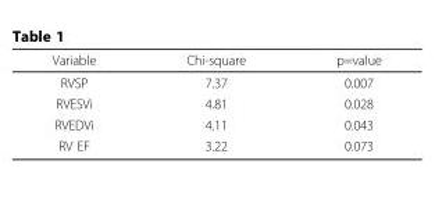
<table><thead><tr><td>Variable</td><td>Chi-square</td><td>p=value</td></tr></thead><tbody><tr><td>RVSP</td><td>7.37</td><td>0.007</td></tr><tr><td>RVESVi</td><td>4.81</td><td>0.028</td></tr><tr><td>RVEDVi</td><td>4.11</td><td>0.043</td></tr><tr><td>RV EF</td><td>3.22</td><td>0.073</td></tr></tbody></table>